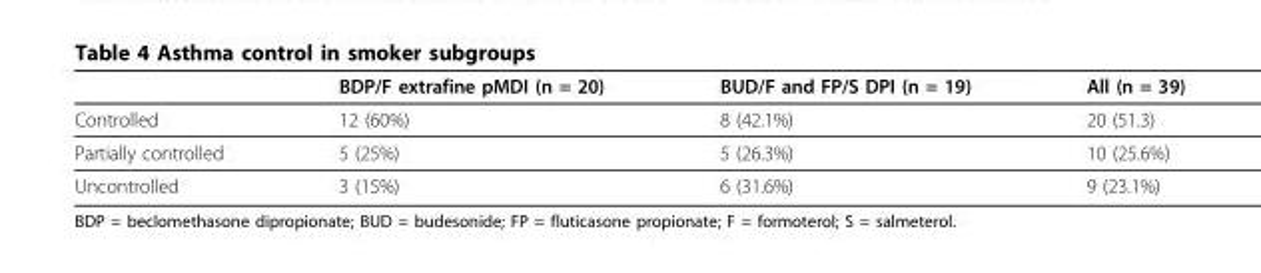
<table><thead><tr><td></td><td>BDP/F extrafine pMDI (n = 20)</td><td>BUD/F and FP/S DPI (n = 19)</td><td>All (n = 39)</td></tr></thead><tbody><tr><td>Controlled</td><td>12 (60%)</td><td>8 (42.1%)</td><td>20 (51.3)</td></tr><tr><td>Partially controlled</td><td>5 (25%)</td><td>5 (26.3%)</td><td>10 (25.6%)</td></tr><tr><td>Uncontrolled</td><td>3 (15%)</td><td>6 (31.6%)</td><td>9 (23.1%)</td></tr></tbody></table>